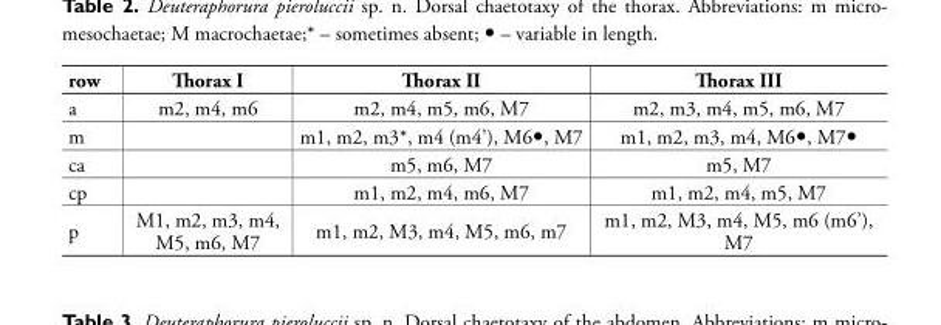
<table><thead><tr><td>row</td><td>Thorax I</td><td>Thorax II</td><td>Thorax III</td></tr></thead><tbody><tr><td>a</td><td>m2, m4, m6</td><td>m2, m4, m5, m6, M7</td><td>m2, m3, m4, m5, m6, M7</td></tr><tr><td>m</td><td></td><td>m1, m2, m3*, m4 (m4’), M6⚫, M7</td><td>m1, m2, m3, m4, M6⚫, M7⚫</td></tr><tr><td>ca</td><td></td><td>m5, m6, M7</td><td>m5, M7</td></tr><tr><td>cp</td><td></td><td>m1, m2, m4, m6, M7</td><td>m1, m2, m4, m5, M7</td></tr><tr><td>p</td><td>M1, m2, m3, m4, M5, m6, M7</td><td>m1, m2, M3, m4, M5, m6, m7</td><td>m1, m2, M3, m4, M5, m6 (m6’), M7</td></tr></tbody></table>